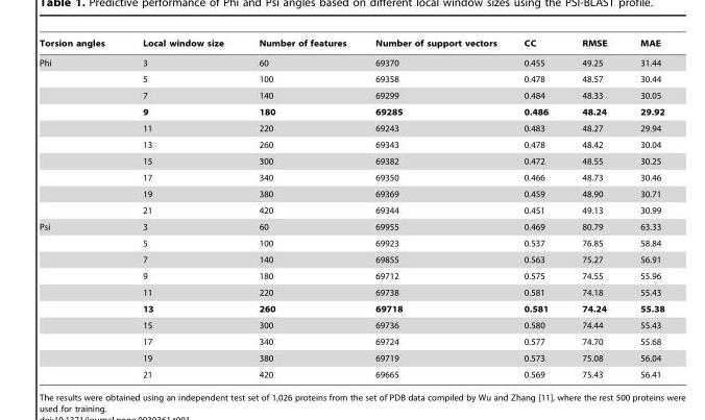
<table><thead><tr><td>Torsion angles</td><td>Local window size</td><td>Number of features</td><td>Number of support vectors</td><td>CC</td><td>RMSE</td><td>MAE</td></tr></thead><tbody><tr><td rowspan="10">Phi</td><td>3</td><td>60</td><td>69370</td><td>0.455</td><td>49.25</td><td>31.44</td></tr><tr><td>5</td><td>100</td><td>69358</td><td>0.478</td><td>48.57</td><td>30.44</td></tr><tr><td>7</td><td>140</td><td>69299</td><td>0.484</td><td>48.33</td><td>30.05</td></tr><tr><td>9</td><td>180</td><td>69285</td><td>0.486</td><td>48.24</td><td>29.92</td></tr><tr><td>11</td><td>220</td><td>69243</td><td>0.483</td><td>48.27</td><td>29.94</td></tr><tr><td>13</td><td>260</td><td>69343</td><td>0.478</td><td>48.42</td><td>30.04</td></tr><tr><td>15</td><td>300</td><td>69382</td><td>0.472</td><td>48.55</td><td>30.25</td></tr><tr><td>17</td><td>340</td><td>69350</td><td>0.466</td><td>48.73</td><td>30.46</td></tr><tr><td>19</td><td>380</td><td>69369</td><td>0.459</td><td>48.90</td><td>30.71</td></tr><tr><td>21</td><td>420</td><td>69344</td><td>0.451</td><td>49.13</td><td>30.99</td></tr><tr><td rowspan="10">Psi</td><td>3</td><td>60</td><td>69955</td><td>0.469</td><td>80.79</td><td>63.33</td></tr><tr><td>5</td><td>100</td><td>69923</td><td>0.537</td><td>76.85</td><td>58.84</td></tr><tr><td>7</td><td>140</td><td>69855</td><td>0.563</td><td>75.27</td><td>56.91</td></tr><tr><td>9</td><td>180</td><td>69712</td><td>0.575</td><td>74.55</td><td>55.96</td></tr><tr><td>11</td><td>220</td><td>69738</td><td>0.581</td><td>74.18</td><td>55.43</td></tr><tr><td>13</td><td>260</td><td>69718</td><td>0.581</td><td>74.24</td><td>55.38</td></tr><tr><td>15</td><td>300</td><td>69736</td><td>0.580</td><td>74.44</td><td>55.43</td></tr><tr><td>17</td><td>340</td><td>69724</td><td>0.577</td><td>74.70</td><td>55.68</td></tr><tr><td>19</td><td>380</td><td>69719</td><td>0.573</td><td>75.08</td><td>56.04</td></tr><tr><td>21</td><td>420</td><td>69665</td><td>0.569</td><td>75.43</td><td>56.41</td></tr></tbody></table>